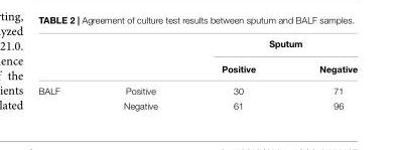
<table><thead><tr><td rowspan="2"></td><td rowspan="2"></td><td colspan="2">Sputum</td></tr><tr><td>Positive</td><td>Negative</td></tr></thead><tbody><tr><td rowspan="2">BALF</td><td>Positive</td><td>30</td><td>71</td></tr><tr><td>Negative</td><td>61</td><td>96</td></tr></tbody></table>